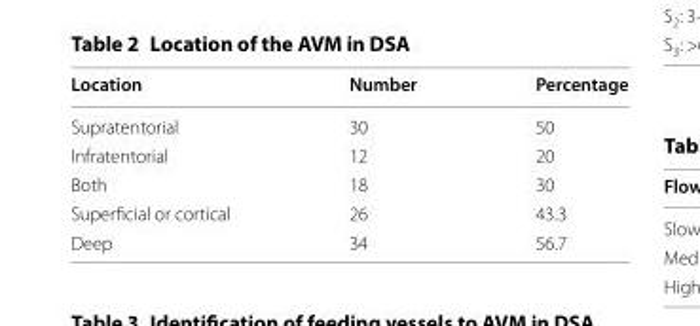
<table><thead><tr><td>Location</td><td>Number</td><td>Percentage</td></tr></thead><tbody><tr><td>Supratentorial</td><td>30</td><td>50</td></tr><tr><td>Infratentorial</td><td>12</td><td>20</td></tr><tr><td>Both</td><td>18</td><td>30</td></tr><tr><td>Superficial or cortical</td><td>26</td><td>43.3</td></tr><tr><td>Deep</td><td>34</td><td>56.7</td></tr></tbody></table>